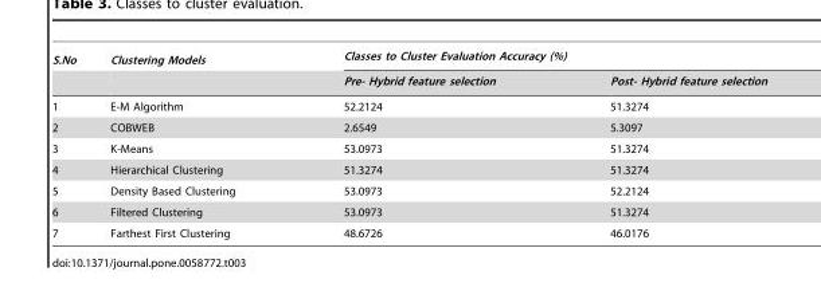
<table><thead><tr><td rowspan="2">S.No</td><td rowspan="2">Clustering Models</td><td colspan="2">Classes to Cluster Evaluation Accuracy (%)</td></tr><tr><td>Pre- Hybrid feature selection</td><td>Post- Hybrid feature selection</td></tr></thead><tbody><tr><td>1</td><td>E-M Algorithm</td><td>52.2124</td><td>51.3274</td></tr><tr><td>2</td><td>COBWEB</td><td>2.6549</td><td>5.3097</td></tr><tr><td>3</td><td>K-Means</td><td>53.0973</td><td>51.3274</td></tr><tr><td>4</td><td>Hierarchical Clustering</td><td>51.3274</td><td>51.3274</td></tr><tr><td>5</td><td>Density Based Clustering</td><td>53.0973</td><td>52.2124</td></tr><tr><td>6</td><td>Filtered Clustering</td><td>53.0973</td><td>51.3274</td></tr><tr><td>7</td><td>Farthest First Clustering</td><td>48.6726</td><td>46.0176</td></tr></tbody></table>